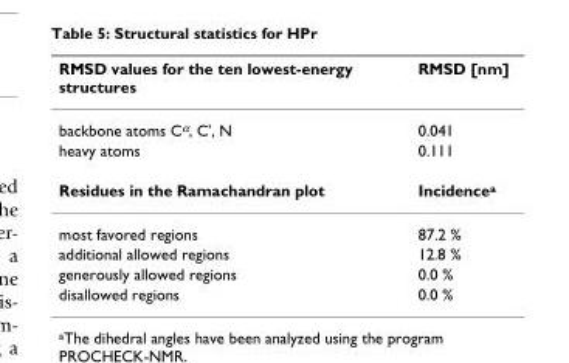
<table><thead><tr><td>RMSD values for the ten lowest-energy structures</td><td>RMSD [nm]</td></tr></thead><tbody><tr><td>backbone atoms Cα, C&#x27;, N</td><td>0.041</td></tr><tr><td>heavy atoms</td><td>0.111</td></tr><tr><td>Residues in the Ramachandran plot</td><td>Incidencea</td></tr><tr><td>most favored regions</td><td>87.2 %</td></tr><tr><td>additional allowed regions</td><td>12.8 %</td></tr><tr><td>generously allowed regions</td><td>0.0 %</td></tr><tr><td>disallowed regions</td><td>0.0 %</td></tr></tbody></table>